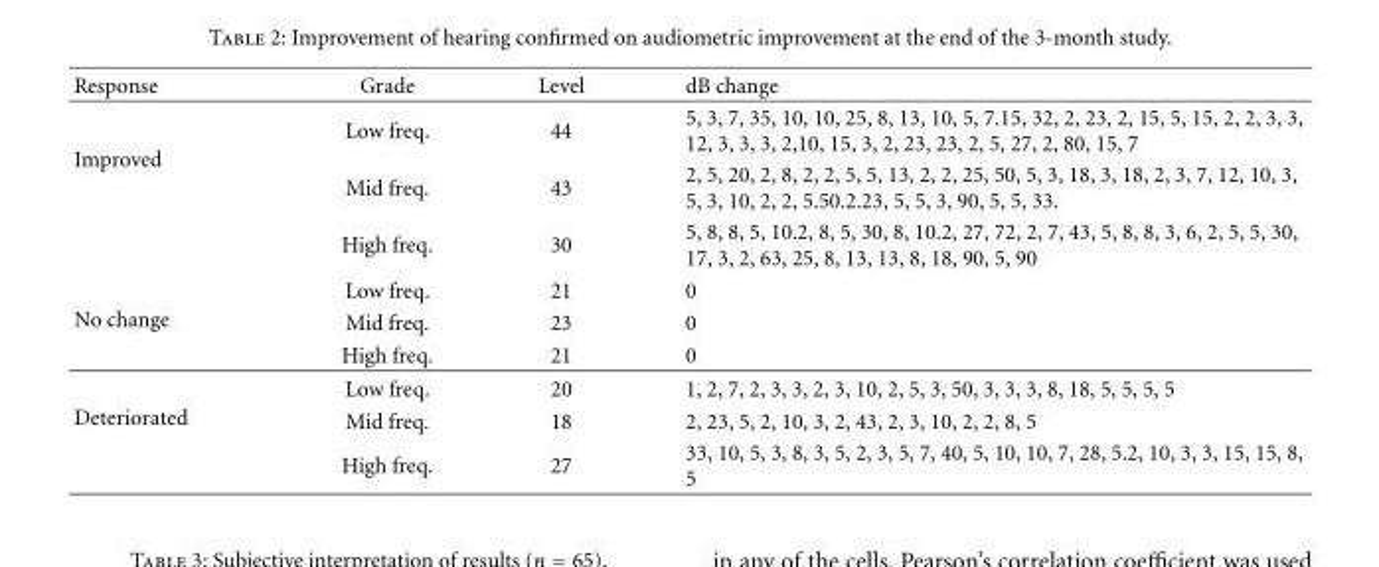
<table><thead><tr><td>Response</td><td>Grade</td><td>Level</td><td>dB change</td></tr></thead><tbody><tr><td rowspan="3">Improved</td><td>Low freq.</td><td>44</td><td>5, 3, 7, 35, 10, 10, 25, 8, 13, 10, 5, 7.15, 32, 2, 23, 2, 15, 5, 15, 2, 2, 3, 3, 12, 3, 3, 3, 2,10, 15, 3, 2, 23, 23, 2, 5, 27, 2, 80, 15, 7</td></tr><tr><td>Mid freq.</td><td>43</td><td>2, 5, 20, 2, 8, 2, 2, 5, 5, 13, 2, 2, 25, 50, 5, 3, 18, 3, 18, 2, 3, 7, 12, 10, 3, 5, 3, 10, 2, 2, 5.50.2.23, 5, 5, 3, 90, 5, 5, 33.</td></tr><tr><td>High freq.</td><td>30</td><td>5, 8, 8, 5, 10.2, 8, 5, 30, 8, 10.2, 27, 72, 2, 7, 43, 5, 8, 8, 3, 6, 2, 5, 5, 30, 17, 3, 2, 63, 25, 8, 13, 13, 8, 18, 90, 5, 90</td></tr><tr><td rowspan="3">No change</td><td>Low freq.</td><td>21</td><td>0</td></tr><tr><td>Mid freq.</td><td>23</td><td>0</td></tr><tr><td>High freq.</td><td>21</td><td>0</td></tr><tr><td rowspan="3">Deteriorated</td><td>Low freq.</td><td>20</td><td>1, 2, 7, 2, 3, 3, 2, 3, 10, 2, 5, 3, 50, 3, 3, 3, 8, 18, 5, 5, 5, 5</td></tr><tr><td>Mid freq.</td><td>18</td><td>2, 23, 5, 2, 10, 3, 2, 43, 2, 3, 10, 2, 2, 8, 5</td></tr><tr><td>High freq.</td><td>27</td><td>33, 10, 5, 3, 8, 3, 5, 2, 3, 5, 7, 40, 5, 10, 10, 7, 28, 5.2, 10, 3, 3, 15, 15, 8, 5</td></tr></tbody></table>